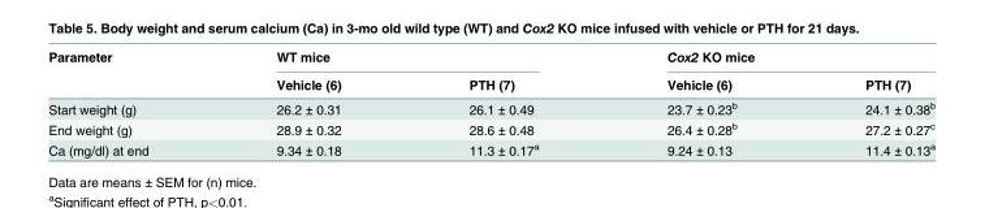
<table><thead><tr><td rowspan="2">Parameter</td><td colspan="2">WT mice</td><td colspan="2">Cox2 KO mice</td></tr><tr><td>Vehicle (6)</td><td>PTH (7)</td><td>Vehicle (6)</td><td>PTH (7)</td></tr></thead><tbody><tr><td>Start weight (g)</td><td>26.2 ± 0.31</td><td>26.1 ± 0.49</td><td>23.7 ± 0.23<sup>b</sup></td><td>24.1 ± 0.38<sup>b</sup></td></tr><tr><td>End weight (g)</td><td>28.9 ± 0.32</td><td>28.6 ± 0.48</td><td>26.4 ± 0.28<sup>b</sup></td><td>27.2 ± 0.27<sup>c</sup></td></tr><tr><td>Ca (mg/dl) at end</td><td>9.34 ± 0.18</td><td>11.3 ± 0.17<sup>a</sup></td><td>9.24 ± 0.13</td><td>11.4 ± 0.13<sup>a</sup></td></tr></tbody></table>